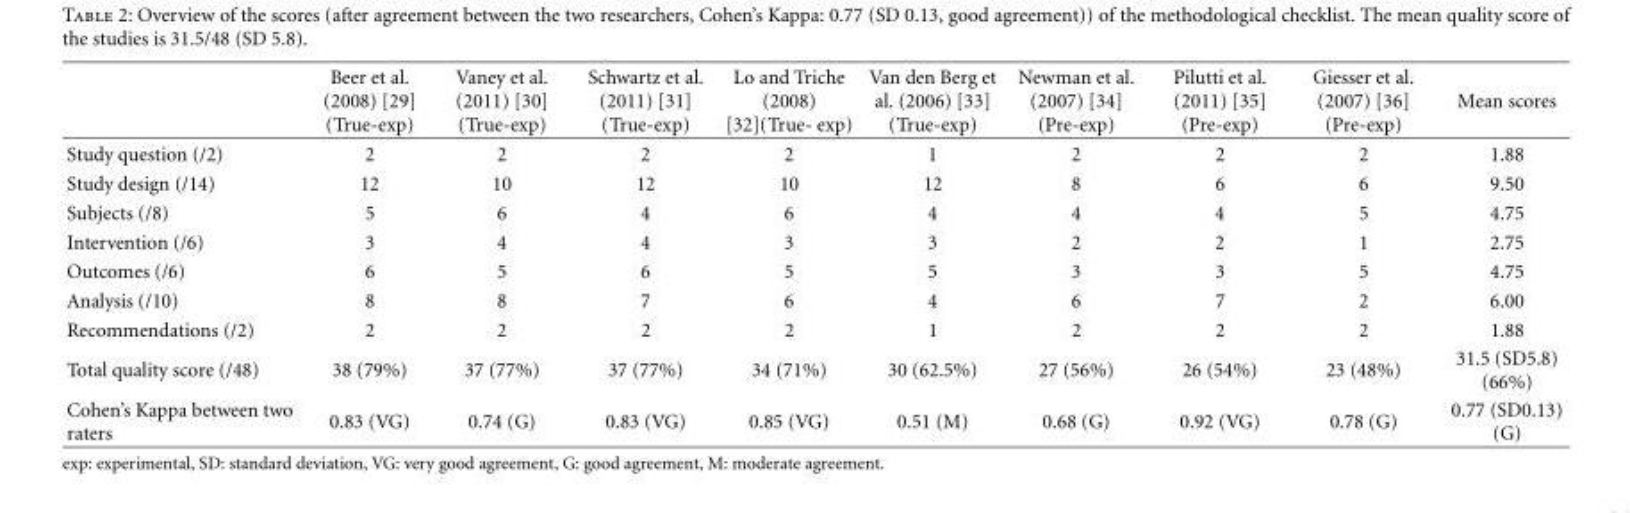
<table><thead><tr><td></td><td>Beer et al. (2008) [29] (True-exp)</td><td>Vaney et al. (2011) [30] (True-exp)</td><td>Schwartz et al. (2011) [31] (True-exp)</td><td>Lo and Triche (2008) [32](True- exp)</td><td>Van den Berg et al. (2006) [33] (True-exp)</td><td>Newman et al. (2007) [34] (Pre-exp)</td><td>Pilutti et al. (2011) [35] (Pre-exp)</td><td>Giesser et al. (2007) [36] (Pre-exp)</td><td>Mean scores</td></tr></thead><tbody><tr><td>Study question (/2)</td><td>2</td><td>2</td><td>2</td><td>2</td><td>1</td><td>2</td><td>2</td><td>2</td><td>1.88</td></tr><tr><td>Study design (/14)</td><td>12</td><td>10</td><td>12</td><td>10</td><td>12</td><td>8</td><td>6</td><td>6</td><td>9.50</td></tr><tr><td>Subjects (/8)</td><td>5</td><td>6</td><td>4</td><td>6</td><td>4</td><td>4</td><td>4</td><td>5</td><td>4.75</td></tr><tr><td>Intervention (/6)</td><td>3</td><td>4</td><td>4</td><td>3</td><td>3</td><td>2</td><td>2</td><td>1</td><td>2.75</td></tr><tr><td>Outcomes (/6)</td><td>6</td><td>5</td><td>6</td><td>5</td><td>5</td><td>3</td><td>3</td><td>5</td><td>4.75</td></tr><tr><td>Analysis (/10)</td><td>8</td><td>8</td><td>7</td><td>6</td><td>4</td><td>6</td><td>7</td><td>2</td><td>6.00</td></tr><tr><td>Recommendations (/2)</td><td>2</td><td>2</td><td>2</td><td>2</td><td>1</td><td>2</td><td>2</td><td>2</td><td>1.88</td></tr><tr><td>Total quality score (/48)</td><td>38 (79%)</td><td>37 (77%)</td><td>37 (77%)</td><td>34 (71%)</td><td>30 (62.5%)</td><td>27 (56%)</td><td>26 (54%)</td><td>23 (48%)</td><td>31.5 (SD5.8) (66%)</td></tr><tr><td>Cohen’s Kappa between two raters</td><td>0.83 (VG)</td><td>0.74 (G)</td><td>0.83 (VG)</td><td>0.85 (VG)</td><td>0.51 (M)</td><td>0.68 (G)</td><td>0.92 (VG)</td><td>0.78 (G)</td><td>0.77 (SD0.13) (G)</td></tr></tbody></table>